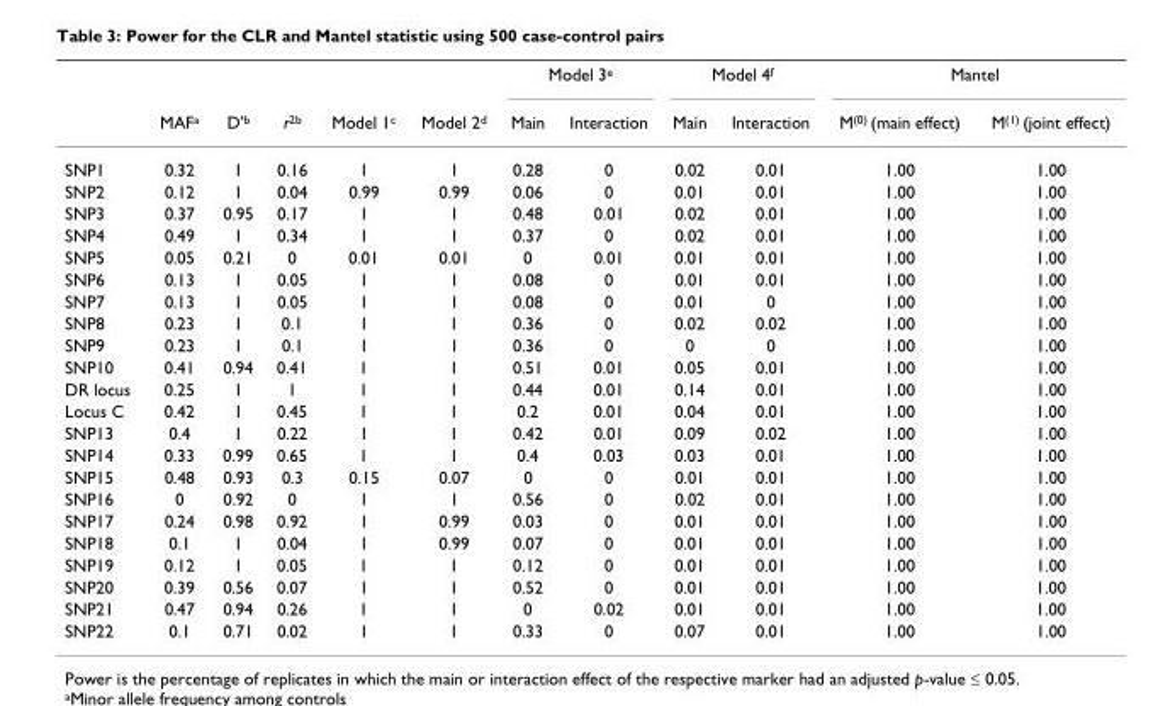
<table><thead><tr><td rowspan="2"></td><td rowspan="2">MAF<sup>a</sup></td><td rowspan="2">D&#x27;<sup>b</sup></td><td rowspan="2">r<sup>2b</sup></td><td rowspan="2">Model 1<sup>c</sup></td><td rowspan="2">Model 2<sup>d</sup></td><td colspan="2">Model 3<sup>e</sup></td><td colspan="2">Model 4<sup>f</sup></td><td colspan="2">Mantel</td></tr><tr><td>Main</td><td>Interaction</td><td>Main</td><td>Interaction</td><td>M<sup>(0)</sup> (main effect)</td><td>M<sup>(1)</sup> (joint effect)</td></tr></thead><tbody><tr><td>SNP1</td><td>0.32</td><td>1</td><td>0.16</td><td>1</td><td>1</td><td>0.28</td><td>0</td><td>0.02</td><td>0.01</td><td>1.00</td><td>1.00</td></tr><tr><td>SNP2</td><td>0.12</td><td>1</td><td>0.04</td><td>0.99</td><td>0.99</td><td>0.06</td><td>0</td><td>0.01</td><td>0.01</td><td>1.00</td><td>1.00</td></tr><tr><td>SNP3</td><td>0.37</td><td>0.95</td><td>0.17</td><td>1</td><td>1</td><td>0.48</td><td>0.01</td><td>0.02</td><td>0.01</td><td>1.00</td><td>1.00</td></tr><tr><td>SNP4</td><td>0.49</td><td>1</td><td>0.34</td><td>1</td><td>1</td><td>0.37</td><td>0</td><td>0.02</td><td>0.01</td><td>1.00</td><td>1.00</td></tr><tr><td>SNP5</td><td>0.05</td><td>0.21</td><td>0</td><td>0.01</td><td>0.01</td><td>0</td><td>0.01</td><td>0.01</td><td>0.01</td><td>1.00</td><td>1.00</td></tr><tr><td>SNP6</td><td>0.13</td><td>1</td><td>0.05</td><td>1</td><td>1</td><td>0.08</td><td>0</td><td>0.01</td><td>0.01</td><td>1.00</td><td>1.00</td></tr><tr><td>SNP7</td><td>0.13</td><td>1</td><td>0.05</td><td>1</td><td>1</td><td>0.08</td><td>0</td><td>0.01</td><td>0</td><td>1.00</td><td>1.00</td></tr><tr><td>SNP8</td><td>0.23</td><td>1</td><td>0.1</td><td>1</td><td>1</td><td>0.36</td><td>0</td><td>0.02</td><td>0.02</td><td>1.00</td><td>1.00</td></tr><tr><td>SNP9</td><td>0.23</td><td>1</td><td>0.1</td><td>1</td><td>1</td><td>0.36</td><td>0</td><td>0</td><td>0</td><td>1.00</td><td>1.00</td></tr><tr><td>SNP10</td><td>0.41</td><td>0.94</td><td>0.41</td><td>1</td><td>1</td><td>0.51</td><td>0.01</td><td>0.05</td><td>0.01</td><td>1.00</td><td>1.00</td></tr><tr><td>DR locus</td><td>0.25</td><td>1</td><td>1</td><td>1</td><td>1</td><td>0.44</td><td>0.01</td><td>0.14</td><td>0.01</td><td>1.00</td><td>1.00</td></tr><tr><td>Locus C</td><td>0.42</td><td>1</td><td>0.45</td><td>1</td><td>1</td><td>0.2</td><td>0.01</td><td>0.04</td><td>0.01</td><td>1.00</td><td>1.00</td></tr><tr><td>SNP13</td><td>0.4</td><td>1</td><td>0.22</td><td>1</td><td>1</td><td>0.42</td><td>0.01</td><td>0.09</td><td>0.02</td><td>1.00</td><td>1.00</td></tr><tr><td>SNP14</td><td>0.33</td><td>0.99</td><td>0.65</td><td>1</td><td>1</td><td>0.4</td><td>0.03</td><td>0.03</td><td>0.01</td><td>1.00</td><td>1.00</td></tr><tr><td>SNP15</td><td>0.48</td><td>0.93</td><td>0.3</td><td>0.15</td><td>0.07</td><td>0</td><td>0</td><td>0.01</td><td>0.01</td><td>1.00</td><td>1.00</td></tr><tr><td>SNP16</td><td>0</td><td>0.92</td><td>0</td><td>1</td><td>1</td><td>0.56</td><td>0</td><td>0.02</td><td>0.01</td><td>1.00</td><td>1.00</td></tr><tr><td>SNP17</td><td>0.24</td><td>0.98</td><td>0.92</td><td>1</td><td>0.99</td><td>0.03</td><td>0</td><td>0.01</td><td>0.01</td><td>1.00</td><td>1.00</td></tr><tr><td>SNP18</td><td>0.1</td><td>1</td><td>0.04</td><td>1</td><td>0.99</td><td>0.07</td><td>0</td><td>0.01</td><td>0.01</td><td>1.00</td><td>1.00</td></tr><tr><td>SNP19</td><td>0.12</td><td>1</td><td>0.05</td><td>1</td><td>1</td><td>0.12</td><td>0</td><td>0.01</td><td>0.01</td><td>1.00</td><td>1.00</td></tr><tr><td>SNP20</td><td>0.39</td><td>0.56</td><td>0.07</td><td>1</td><td>1</td><td>0.52</td><td>0</td><td>0.01</td><td>0.01</td><td>1.00</td><td>1.00</td></tr><tr><td>SNP21</td><td>0.47</td><td>0.94</td><td>0.26</td><td>1</td><td>1</td><td>0</td><td>0.02</td><td>0.01</td><td>0.01</td><td>1.00</td><td>1.00</td></tr><tr><td>SNP22</td><td>0.1</td><td>0.71</td><td>0.02</td><td>1</td><td>1</td><td>0.33</td><td>0</td><td>0.07</td><td>0.01</td><td>1.00</td><td>1.00</td></tr></tbody></table>